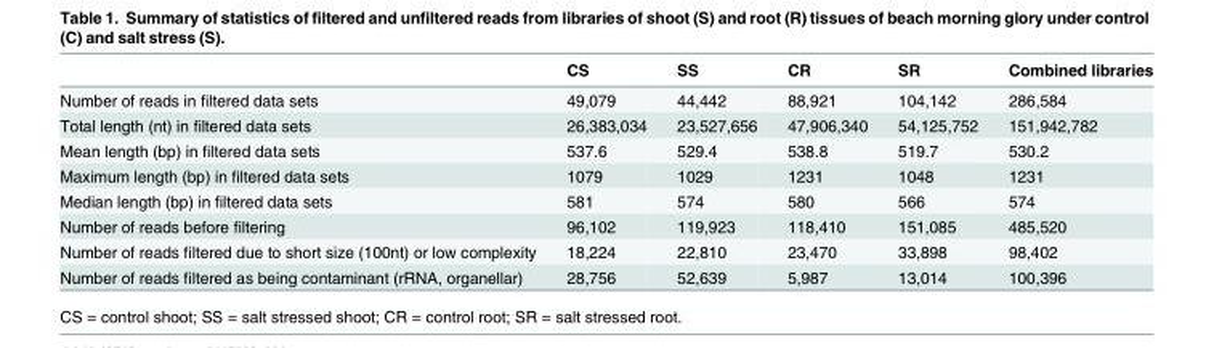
<table><thead><tr><td></td><td>CS</td><td>SS</td><td>CR</td><td>SR</td><td>Combined libraries</td></tr></thead><tbody><tr><td>Number of reads in filtered data sets</td><td>49,079</td><td>44,442</td><td>88,921</td><td>104,142</td><td>286,584</td></tr><tr><td>Total length (nt) in filtered data sets</td><td>26,383,034</td><td>23,527,656</td><td>47,906,340</td><td>54,125,752</td><td>151,942,782</td></tr><tr><td>Mean length (bp) in filtered data sets</td><td>537.6</td><td>529.4</td><td>538.8</td><td>519.7</td><td>530.2</td></tr><tr><td>Maximum length (bp) in filtered data sets</td><td>1079</td><td>1029</td><td>1231</td><td>1048</td><td>1231</td></tr><tr><td>Median length (bp) in filtered data sets</td><td>581</td><td>574</td><td>580</td><td>566</td><td>574</td></tr><tr><td>Number of reads before filtering</td><td>96,102</td><td>119,923</td><td>118,410</td><td>151,085</td><td>485,520</td></tr><tr><td>Number of reads filtered due to short size (100nt) or low complexity</td><td>18,224</td><td>22,810</td><td>23,470</td><td>33,898</td><td>98,402</td></tr><tr><td>Number of reads filtered as being contaminant (rRNA, organellar)</td><td>28,756</td><td>52,639</td><td>5,987</td><td>13,014</td><td>100,396</td></tr></tbody></table>